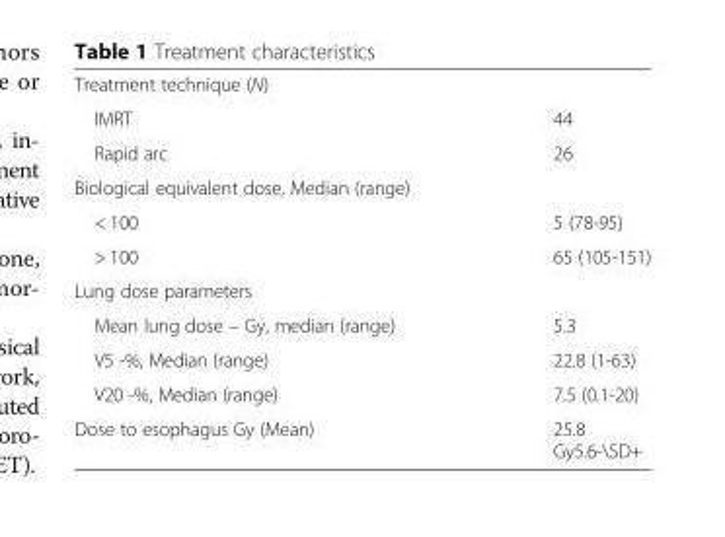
<table><tbody><tr><td colspan="2">Treatment technique (N)</td></tr><tr><td>IMRT</td><td>44</td></tr><tr><td>Rapid arc</td><td>26</td></tr><tr><td colspan="2">Biological equivalent dose, Median (range)</td></tr><tr><td>&lt; 100</td><td>5 (78-95)</td></tr><tr><td>&gt; 100</td><td>65 (105-151)</td></tr><tr><td colspan="2">Lung dose parameters</td></tr><tr><td>Mean lung dose – Gy, median (range)</td><td>5.3</td></tr><tr><td>V5 -%, Median (range)</td><td>22.8 (1-63)</td></tr><tr><td>V20 -%, Median (range)</td><td>7.5 (0.1-20)</td></tr><tr><td>Dose to esophagus Gy (Mean)</td><td>25.8 Gy5.6-\SD+</td></tr></tbody></table>